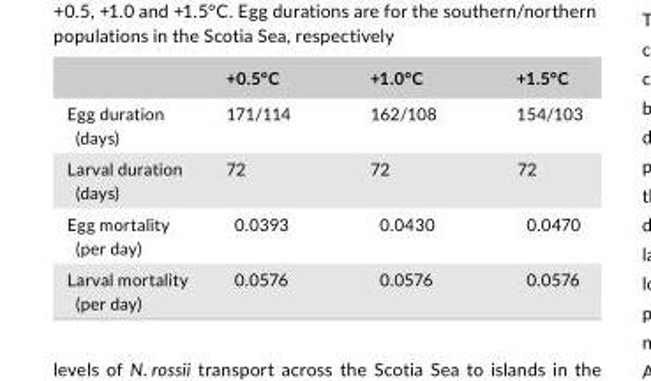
<table><thead><tr><td></td><td>+0.5°C</td><td>+1.0°C</td><td>+1.5°C</td></tr></thead><tbody><tr><td>Egg duration (days)</td><td>171/114</td><td>162/108</td><td>154/103</td></tr><tr><td>Larval duration (days)</td><td>72</td><td>72</td><td>72</td></tr><tr><td>Egg mortality (per day)</td><td>0.0393</td><td>0.0430</td><td>0.0470</td></tr><tr><td>Larval mortality (per day)</td><td>0.0576</td><td>0.0576</td><td>0.0576</td></tr></tbody></table>